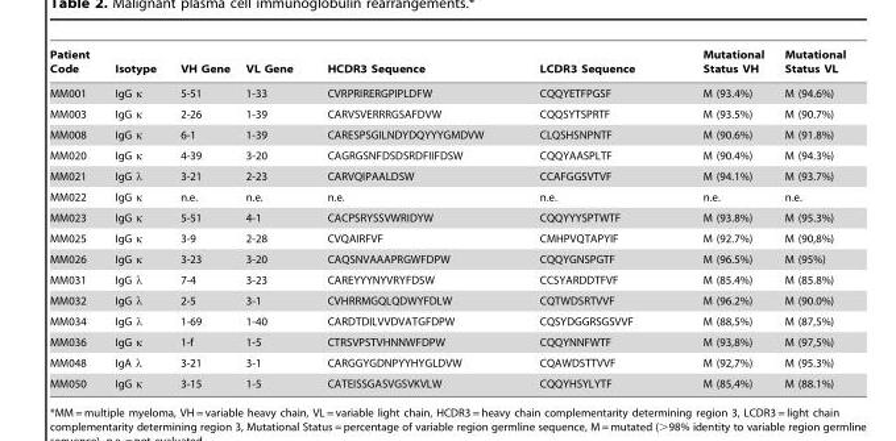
<table><thead><tr><td>Patient Code</td><td>Isotype</td><td>VH Gene</td><td>VL Gene</td><td>HCDR3 Sequence</td><td>LCDR3 Sequence</td><td>Mutational Status VH</td><td>Mutational Status VL</td></tr></thead><tbody><tr><td>MM001</td><td>IgG κ</td><td>5-51</td><td>1-33</td><td>CVRPRIRERGPIPLDFW</td><td>CQQYETFPGSF</td><td>M (93.4%)</td><td>M (94.6%)</td></tr><tr><td>MM003</td><td>IgG κ</td><td>2-26</td><td>1-39</td><td>CARVSVERRRGSAFDVW</td><td>CQQSYTSPRTF</td><td>M (93.5%)</td><td>M (90.7%)</td></tr><tr><td>MM008</td><td>IgG κ</td><td>6-1</td><td>1-39</td><td>CARESPSGILNDYDQYYYGMDVW</td><td>CLQSHSNPNTF</td><td>M (90.6%)</td><td>M (91.8%)</td></tr><tr><td>MM020</td><td>IgG κ</td><td>4-39</td><td>3-20</td><td>CAGRGSNFDSDSRDFIIFDSW</td><td>CQQYAASPLTF</td><td>M (90.4%)</td><td>M (94.3%)</td></tr><tr><td>MM021</td><td>IgG λ</td><td>3-21</td><td>2-23</td><td>CARVQIPAALDSW</td><td>CCAFGGSVTVF</td><td>M (94.1%)</td><td>M (93.7%)</td></tr><tr><td>MM022</td><td>IgG κ</td><td>n.e.</td><td>n.e.</td><td>n.e.</td><td>n.e.</td><td>n.e.</td><td>n.e.</td></tr><tr><td>MM023</td><td>IgG κ</td><td>5-51</td><td>4-1</td><td>CACPSRYSSVWRIDYW</td><td>CQQYYYSPTWTF</td><td>M (93.8%)</td><td>M (95.3%)</td></tr><tr><td>MM025</td><td>IgG κ</td><td>3-9</td><td>2-28</td><td>CVQAIRFVF</td><td>CMHPVQTAPYIF</td><td>M (92.7%)</td><td>M (90,8%)</td></tr><tr><td>MM026</td><td>IgG κ</td><td>3-23</td><td>3-20</td><td>CAQSNVAAAPRGWFDPW</td><td>CQQYGNSPGTF</td><td>M (96.5%)</td><td>M (95%)</td></tr><tr><td>MM031</td><td>IgG λ</td><td>7-4</td><td>3-23</td><td>CAREYYYNYVRYFDSW</td><td>CCSYARDDTFVF</td><td>M (85.4%)</td><td>M (85.8%)</td></tr><tr><td>MM032</td><td>IgG λ</td><td>2-5</td><td>3-1</td><td>CVHRRMGQLQDWYFDLW</td><td>CQTWDSRTVVF</td><td>M (96.2%)</td><td>M (90.0%)</td></tr><tr><td>MM034</td><td>IgG λ</td><td>1-69</td><td>1-40</td><td>CARDTDILVVDVATGFDPW</td><td>CQSYDGGRSGSVVF</td><td>M (88,5%)</td><td>M (87,5%)</td></tr><tr><td>MM036</td><td>IgG κ</td><td>1-f</td><td>1-5</td><td>CTRSVPSTVHNNWFDPW</td><td>CQQYNNFWTF</td><td>M (93,8%)</td><td>M (97,5%)</td></tr><tr><td>MM048</td><td>IgA λ</td><td>3-21</td><td>3-1</td><td>CARGGYGDNPYYHYGLDVW</td><td>CQAWDSTTVVF</td><td>M (92,7%)</td><td>M (95.3%)</td></tr><tr><td>MM050</td><td>IgG κ</td><td>3-15</td><td>1-5</td><td>CATEISSGASVGSVKVLW</td><td>CQQYHSYLYTF</td><td>M (85,4%)</td><td>M (88.1%)</td></tr></tbody></table>